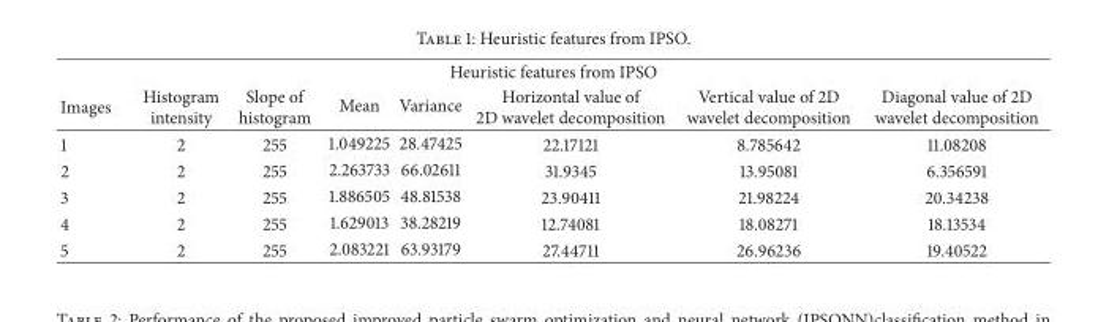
<table><thead><tr><td colspan="8">Heuristic features from IPSO</td></tr><tr><td>Images</td><td>Histogram intensity</td><td>Slope of histogram</td><td>Mean</td><td>Variance</td><td>Horizontal value of 2D wavelet decomposition</td><td>Vertical value of 2D wavelet decomposition</td><td>Diagonal value of 2D wavelet decomposition</td></tr></thead><tbody><tr><td>1</td><td>2</td><td>255</td><td>1.049225</td><td>28.47425</td><td>22.17121</td><td>8.785642</td><td>11.08208</td></tr><tr><td>2</td><td>2</td><td>255</td><td>2.263733</td><td>66.02611</td><td>31.9345</td><td>13.95081</td><td>6.356591</td></tr><tr><td>3</td><td>2</td><td>255</td><td>1.886505</td><td>48.81538</td><td>23.90411</td><td>21.98224</td><td>20.34238</td></tr><tr><td>4</td><td>2</td><td>255</td><td>1.629013</td><td>38.28219</td><td>12.74081</td><td>18.08271</td><td>18.13534</td></tr><tr><td>5</td><td>2</td><td>255</td><td>2.083221</td><td>63.93179</td><td>27.44711</td><td>26.96236</td><td>19.40522</td></tr></tbody></table>